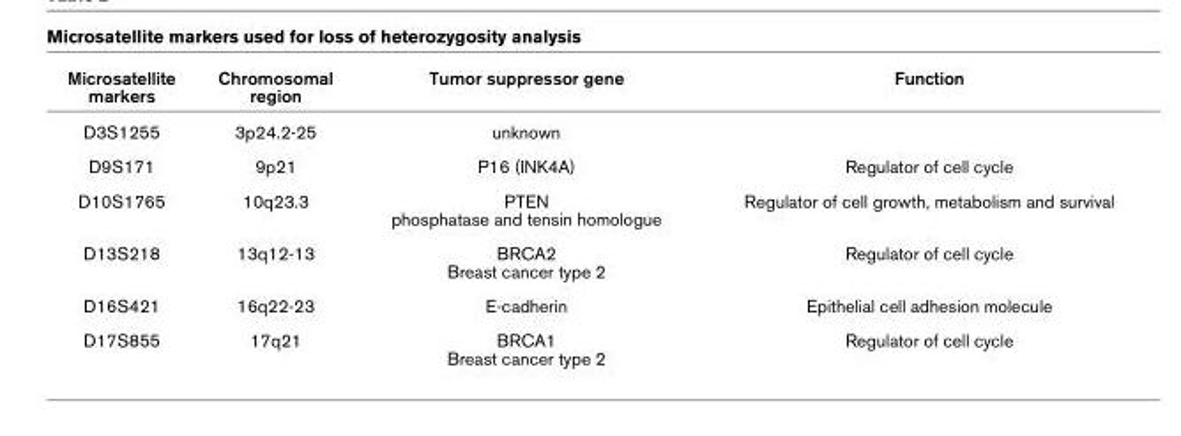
<table><thead><tr><td>Microsatellite markers</td><td>Chromosomal region</td><td>Tumor suppressor gene</td><td>Function</td></tr></thead><tbody><tr><td>D3S1255</td><td>3p24.2-25</td><td>unknown</td><td></td></tr><tr><td>D9S171</td><td>9p21</td><td>P16 (INK4A)</td><td>Regulator of cell cycle</td></tr><tr><td>D10S1765</td><td>10q23.3</td><td>PTEN phosphatase and tensin homologue</td><td>Regulator of cell growth, metabolism and survival</td></tr><tr><td>D13S218</td><td>13q12-13</td><td>BRCA2 Breast cancer type 2</td><td>Regulator of cell cycle</td></tr><tr><td>D16S421</td><td>16q22-23</td><td>E-cadherin</td><td>Epithelial cell adhesion molecule</td></tr><tr><td>D17S855</td><td>17q21</td><td>BRCA1 Breast cancer type 2</td><td>Regulator of cell cycle</td></tr></tbody></table>